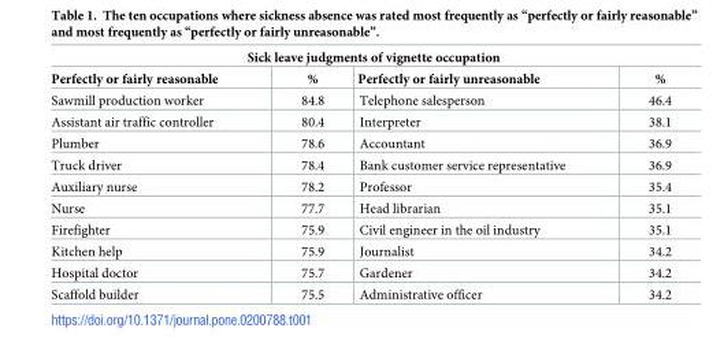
<table><thead><tr><td colspan="4">Sick leave judgments of vignette occupation</td></tr><tr><td>Perfectly or fairly reasonable</td><td>%</td><td>Perfectly or fairly unreasonable</td><td>%</td></tr></thead><tbody><tr><td>Sawmill production worker</td><td>84.8</td><td>Telephone salesperson</td><td>46.4</td></tr><tr><td>Assistant air traffic controller</td><td>80.4</td><td>Interpreter</td><td>38.1</td></tr><tr><td>Plumber</td><td>78.6</td><td>Accountant</td><td>36.9</td></tr><tr><td>Truck driver</td><td>78.4</td><td>Bank customer service representative</td><td>36.9</td></tr><tr><td>Auxiliary nurse</td><td>78.2</td><td>Professor</td><td>35.4</td></tr><tr><td>Nurse</td><td>77.7</td><td>Head librarian</td><td>35.1</td></tr><tr><td>Firefighter</td><td>75.9</td><td>Civil engineer in the oil industry</td><td>35.1</td></tr><tr><td>Kitchen help</td><td>75.9</td><td>Journalist</td><td>34.2</td></tr><tr><td>Hospital doctor</td><td>75.7</td><td>Gardener</td><td>34.2</td></tr><tr><td>Scaffold builder</td><td>75.5</td><td>Administrative officer</td><td>34.2</td></tr></tbody></table>